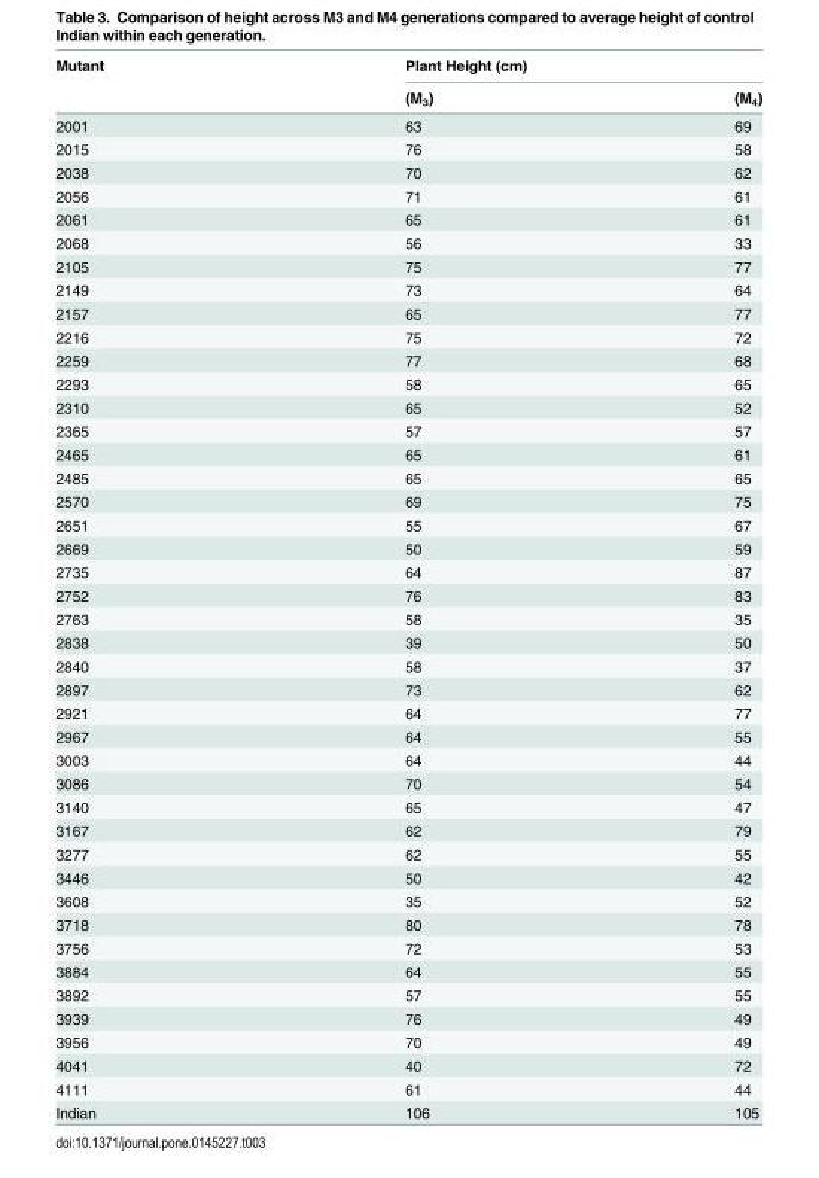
<table><thead><tr><td rowspan="2">Mutant</td><td colspan="2">Plant Height (cm)</td></tr><tr><td>(M<sub>3</sub>)</td><td>(M<sub>4</sub>)</td></tr></thead><tbody><tr><td>2001</td><td>63</td><td>69</td></tr><tr><td>2015</td><td>76</td><td>58</td></tr><tr><td>2038</td><td>70</td><td>62</td></tr><tr><td>2056</td><td>71</td><td>61</td></tr><tr><td>2061</td><td>65</td><td>61</td></tr><tr><td>2068</td><td>56</td><td>33</td></tr><tr><td>2105</td><td>75</td><td>77</td></tr><tr><td>2149</td><td>73</td><td>64</td></tr><tr><td>2157</td><td>65</td><td>77</td></tr><tr><td>2216</td><td>75</td><td>72</td></tr><tr><td>2259</td><td>77</td><td>68</td></tr><tr><td>2293</td><td>58</td><td>65</td></tr><tr><td>2310</td><td>65</td><td>52</td></tr><tr><td>2365</td><td>57</td><td>57</td></tr><tr><td>2465</td><td>65</td><td>61</td></tr><tr><td>2485</td><td>65</td><td>65</td></tr><tr><td>2570</td><td>69</td><td>75</td></tr><tr><td>2651</td><td>55</td><td>67</td></tr><tr><td>2669</td><td>50</td><td>59</td></tr><tr><td>2735</td><td>64</td><td>87</td></tr><tr><td>2752</td><td>76</td><td>83</td></tr><tr><td>2763</td><td>58</td><td>35</td></tr><tr><td>2838</td><td>39</td><td>50</td></tr><tr><td>2840</td><td>58</td><td>37</td></tr><tr><td>2897</td><td>73</td><td>62</td></tr><tr><td>2921</td><td>64</td><td>77</td></tr><tr><td>2967</td><td>64</td><td>55</td></tr><tr><td>3003</td><td>64</td><td>44</td></tr><tr><td>3086</td><td>70</td><td>54</td></tr><tr><td>3140</td><td>65</td><td>47</td></tr><tr><td>3167</td><td>62</td><td>79</td></tr><tr><td>3277</td><td>62</td><td>55</td></tr><tr><td>3446</td><td>50</td><td>42</td></tr><tr><td>3608</td><td>35</td><td>52</td></tr><tr><td>3718</td><td>80</td><td>78</td></tr><tr><td>3756</td><td>72</td><td>53</td></tr><tr><td>3884</td><td>64</td><td>55</td></tr><tr><td>3892</td><td>57</td><td>55</td></tr><tr><td>3939</td><td>76</td><td>49</td></tr><tr><td>3956</td><td>70</td><td>49</td></tr><tr><td>4041</td><td>40</td><td>72</td></tr><tr><td>4111</td><td>61</td><td>44</td></tr><tr><td>Indian</td><td>106</td><td>105</td></tr></tbody></table>